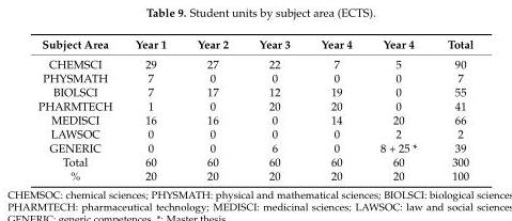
<table><thead><tr><td>Subject Area</td><td>Year 1</td><td>Year 2</td><td>Year 3</td><td>Year 4</td><td>Year 4</td><td>Total</td></tr></thead><tbody><tr><td>CHEMSCI</td><td>29</td><td>27</td><td>22</td><td>7</td><td>5</td><td>90</td></tr><tr><td>PHYSMATH</td><td>7</td><td>0</td><td>0</td><td>0</td><td>0</td><td>7</td></tr><tr><td>BIOLSCI</td><td>7</td><td>17</td><td>12</td><td>19</td><td>0</td><td>55</td></tr><tr><td>PHARMTECH</td><td>1</td><td>0</td><td>20</td><td>20</td><td>0</td><td>41</td></tr><tr><td>MEDISCI</td><td>16</td><td>16</td><td>0</td><td>14</td><td>20</td><td>66</td></tr><tr><td>LAWSOC</td><td>0</td><td>0</td><td>0</td><td>0</td><td>2</td><td>2</td></tr><tr><td>GENERIC</td><td>0</td><td>0</td><td>6</td><td>0</td><td>8 + 25 *</td><td>39</td></tr><tr><td>Total</td><td>60</td><td>60</td><td>60</td><td>60</td><td>60</td><td>300</td></tr><tr><td>%</td><td>20</td><td>20</td><td>20</td><td>20</td><td>20</td><td>100</td></tr></tbody></table>